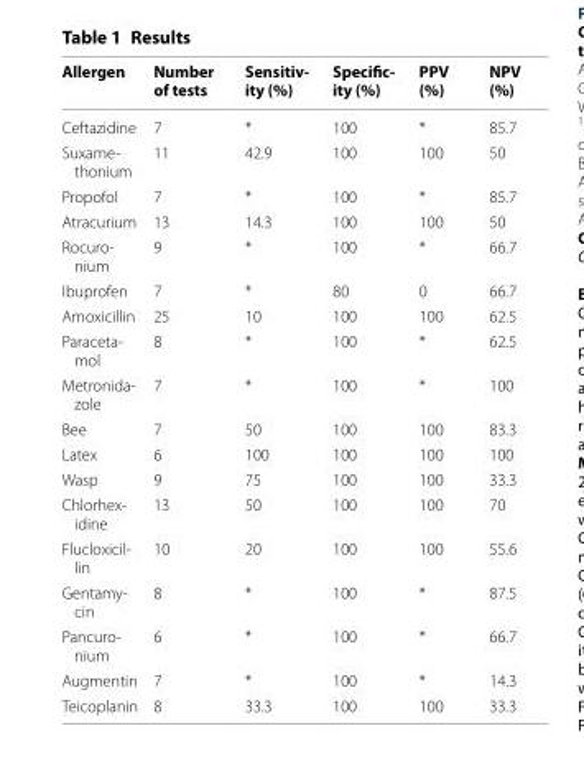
<table><thead><tr><td>Allergen</td><td>Number of tests</td><td>Sensitiv‑ ity (%)</td><td>Specific‑ ity (%)</td><td>PPV (%)</td><td>NPV (%)</td></tr></thead><tbody><tr><td>Ceftazidine</td><td>7</td><td>*</td><td>100</td><td>*</td><td>85.7</td></tr><tr><td>Suxame‑ thonium</td><td>11</td><td>42.9</td><td>100</td><td>100</td><td>50</td></tr><tr><td>Propofol</td><td>7</td><td>*</td><td>100</td><td>*</td><td>85.7</td></tr><tr><td>Atracurium</td><td>13</td><td>14.3</td><td>100</td><td>100</td><td>50</td></tr><tr><td>Rocuro‑ nium</td><td>9</td><td>*</td><td>100</td><td>*</td><td>66.7</td></tr><tr><td>Ibuprofen</td><td>7</td><td>*</td><td>80</td><td>0</td><td>66.7</td></tr><tr><td>Amoxicillin</td><td>25</td><td>10</td><td>100</td><td>100</td><td>62.5</td></tr><tr><td>Paraceta‑ mol</td><td>8</td><td>*</td><td>100</td><td>*</td><td>62.5</td></tr><tr><td>Metronida‑ zole</td><td>7</td><td>*</td><td>100</td><td>*</td><td>100</td></tr><tr><td>Bee</td><td>7</td><td>50</td><td>100</td><td>100</td><td>83.3</td></tr><tr><td>Latex</td><td>6</td><td>100</td><td>100</td><td>100</td><td>100</td></tr><tr><td>Wasp</td><td>9</td><td>75</td><td>100</td><td>100</td><td>33.3</td></tr><tr><td>Chlorhex‑ idine</td><td>13</td><td>50</td><td>100</td><td>100</td><td>70</td></tr><tr><td>Flucloxicil‑ lin</td><td>10</td><td>20</td><td>100</td><td>100</td><td>55.6</td></tr><tr><td>Gentamy‑ cin</td><td>8</td><td>*</td><td>100</td><td>*</td><td>87.5</td></tr><tr><td>Pancuro‑ nium</td><td>6</td><td>*</td><td>100</td><td>*</td><td>66.7</td></tr><tr><td>Augmentin</td><td>7</td><td>*</td><td>100</td><td>*</td><td>14.3</td></tr><tr><td>Teicoplanin</td><td>8</td><td>33.3</td><td>100</td><td>100</td><td>33.3</td></tr></tbody></table>